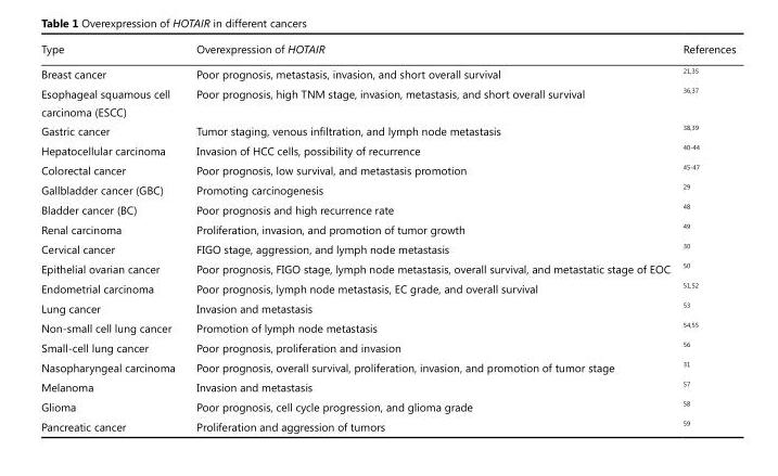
<table><thead><tr><td>Type</td><td>Overexpression of HOTAIR</td><td>References</td></tr></thead><tbody><tr><td>Breast cancer</td><td>Poor prognosis, metastasis, invasion, and short overall survival</td><td><sup>21</sup>,<sup>35</sup></td></tr><tr><td>Esophageal squamous cell carcinoma (ESCC)</td><td>Poor prognosis, high TNM stage, invasion, metastasis, and short overall survival</td><td><sup>36</sup>,<sup>37</sup></td></tr><tr><td>Gastric cancer</td><td>Tumor staging, venous infiltration, and lymph node metastasis</td><td><sup>38</sup>,<sup>39</sup></td></tr><tr><td>Hepatocellular carcinoma</td><td>Invasion of HCC cells, possibility of recurrence</td><td><sup>40</sup>-<sup>44</sup></td></tr><tr><td>Colorectal cancer</td><td>Poor prognosis, low survival, and metastasis promotion</td><td><sup>45</sup>-<sup>47</sup></td></tr><tr><td>Gallbladder cancer (GBC)</td><td>Promoting carcinogenesis</td><td><sup>29</sup></td></tr><tr><td>Bladder cancer (BC)</td><td>Poor prognosis and high recurrence rate</td><td><sup>48</sup></td></tr><tr><td>Renal carcinoma</td><td>Proliferation, invasion, and promotion of tumor growth</td><td><sup>49</sup></td></tr><tr><td>Cervical cancer</td><td>FIGO stage, aggression, and lymph node metastasis</td><td><sup>30</sup></td></tr><tr><td>Epithelial ovarian cancer</td><td>Poor prognosis, FIGO stage, lymph node metastasis, overall survival, and metastatic stage of EOC</td><td><sup>50</sup></td></tr><tr><td>Endometrial carcinoma</td><td>Poor prognosis, lymph node metastasis, EC grade, and overall survival</td><td><sup>51</sup>,<sup>52</sup></td></tr><tr><td>Lung cancer</td><td>Invasion and metastasis</td><td><sup>53</sup></td></tr><tr><td>Non-small cell lung cancer</td><td>Promotion of lymph node metastasis</td><td><sup>54</sup>,<sup>55</sup></td></tr><tr><td>Small-cell lung cancer</td><td>Poor prognosis, proliferation and invasion</td><td><sup>56</sup></td></tr><tr><td>Nasopharyngeal carcinoma</td><td>Poor prognosis, overall survival, proliferation, invasion, and promotion of tumor stage</td><td><sup>31</sup></td></tr><tr><td>Melanoma</td><td>Invasion and metastasis</td><td><sup>57</sup></td></tr><tr><td>Glioma</td><td>Poor prognosis, cell cycle progression, and glioma grade</td><td><sup>58</sup></td></tr><tr><td>Pancreatic cancer</td><td>Proliferation and aggression of tumors</td><td><sup>59</sup></td></tr></tbody></table>